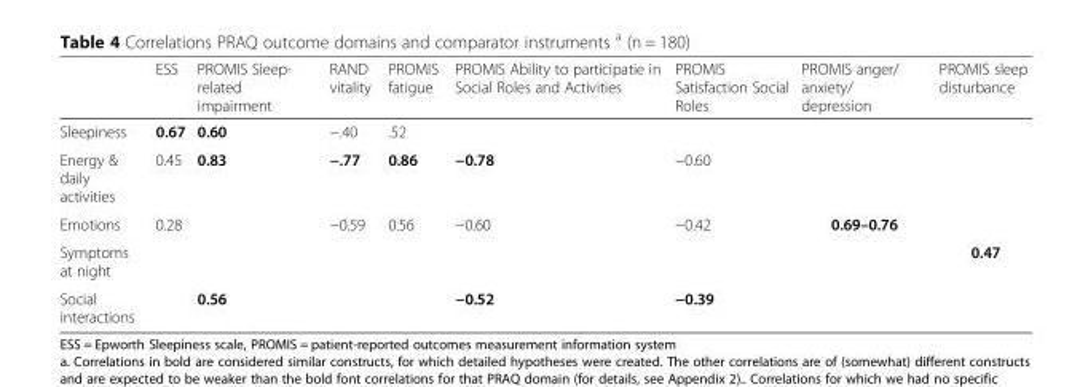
<table><thead><tr><td></td><td>ESS</td><td>PROMIS Sleep- related impairment</td><td>RAND vitality</td><td>PROMIS fatigue</td><td>PROMIS Ability to participatie in Social Roles and Activities</td><td>PROMIS Satisfaction Social Roles</td><td>PROMIS anger/ anxiety/ depression</td><td>PROMIS sleep disturbance</td></tr></thead><tbody><tr><td>Sleepiness</td><td>0.67</td><td>0.60</td><td>−.40</td><td>.52</td><td></td><td></td><td></td><td></td></tr><tr><td>Energy &amp; daily activities</td><td>0.45</td><td>0.83</td><td>−.77</td><td>0.86</td><td>−0.78</td><td>−0.60</td><td></td><td></td></tr><tr><td>Emotions</td><td>0.28</td><td></td><td>−0.59</td><td>0.56</td><td>−0.60</td><td>−0.42</td><td>0.69–0.76</td><td></td></tr><tr><td>Symptoms at night</td><td></td><td></td><td></td><td></td><td></td><td></td><td></td><td>0.47</td></tr><tr><td>Social interactions</td><td></td><td>0.56</td><td></td><td></td><td>−0.52</td><td>−0.39</td><td></td><td></td></tr></tbody></table>